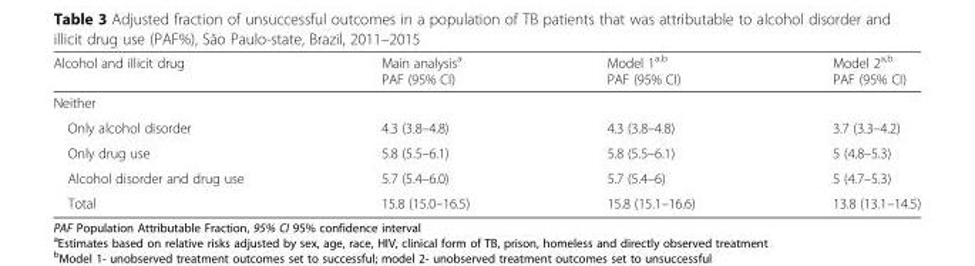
<table><thead><tr><td>Alcohol and illicit drug</td><td>Main analysis<sup>a</sup> PAF (95% CI)</td><td>Model 1<sup>a,b</sup> PAF (95% CI)</td><td>Model 2<sup>a,b</sup> PAF (95% CI)</td></tr></thead><tbody><tr><td colspan="4">Neither</td></tr><tr><td>Only alcohol disorder</td><td>4.3 (3.8–4.8)</td><td>4.3 (3.8–4.8)</td><td>3.7 (3.3–4.2)</td></tr><tr><td>Only drug use</td><td>5.8 (5.5–6.1)</td><td>5.8 (5.5–6.1)</td><td>5 (4.8–5.3)</td></tr><tr><td>Alcohol disorder and drug use</td><td>5.7 (5.4–6.0)</td><td>5.7 (5.4–6)</td><td>5 (4.7–5.3)</td></tr><tr><td>Total</td><td>15.8 (15.0–16.5)</td><td>15.8 (15.1–16.6)</td><td>13.8 (13.1–14.5)</td></tr></tbody></table>